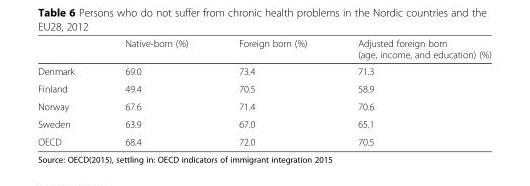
<table><thead><tr><td></td><td>Native-born (%)</td><td>Foreign born (%)</td><td>Adjusted foreign born (age, income, and education) (%)</td></tr></thead><tbody><tr><td>Denmark</td><td>69.0</td><td>73.4</td><td>71.3</td></tr><tr><td>Finland</td><td>49.4</td><td>70.5</td><td>58.9</td></tr><tr><td>Norway</td><td>67.6</td><td>71.4</td><td>70.6</td></tr><tr><td>Sweden</td><td>63.9</td><td>67.0</td><td>65.1</td></tr><tr><td>OECD</td><td>68.4</td><td>72.0</td><td>70.5</td></tr></tbody></table>